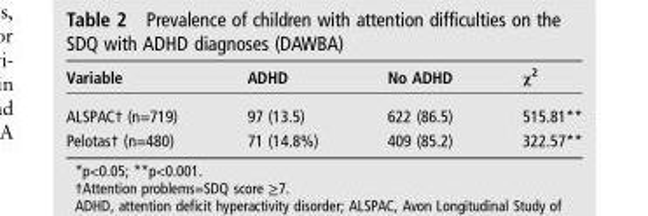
<table><thead><tr><td>Variable</td><td>ADHD</td><td>No ADHD</td><td>χ<sup>2</sup></td></tr></thead><tbody><tr><td>ALSPAC† (n=719)</td><td>97 (13.5)</td><td>622 (86.5)</td><td>515.81**</td></tr><tr><td>Pelotas† (n=480)</td><td>71 (14.8%)</td><td>409 (85.2)</td><td>322.57**</td></tr></tbody></table>